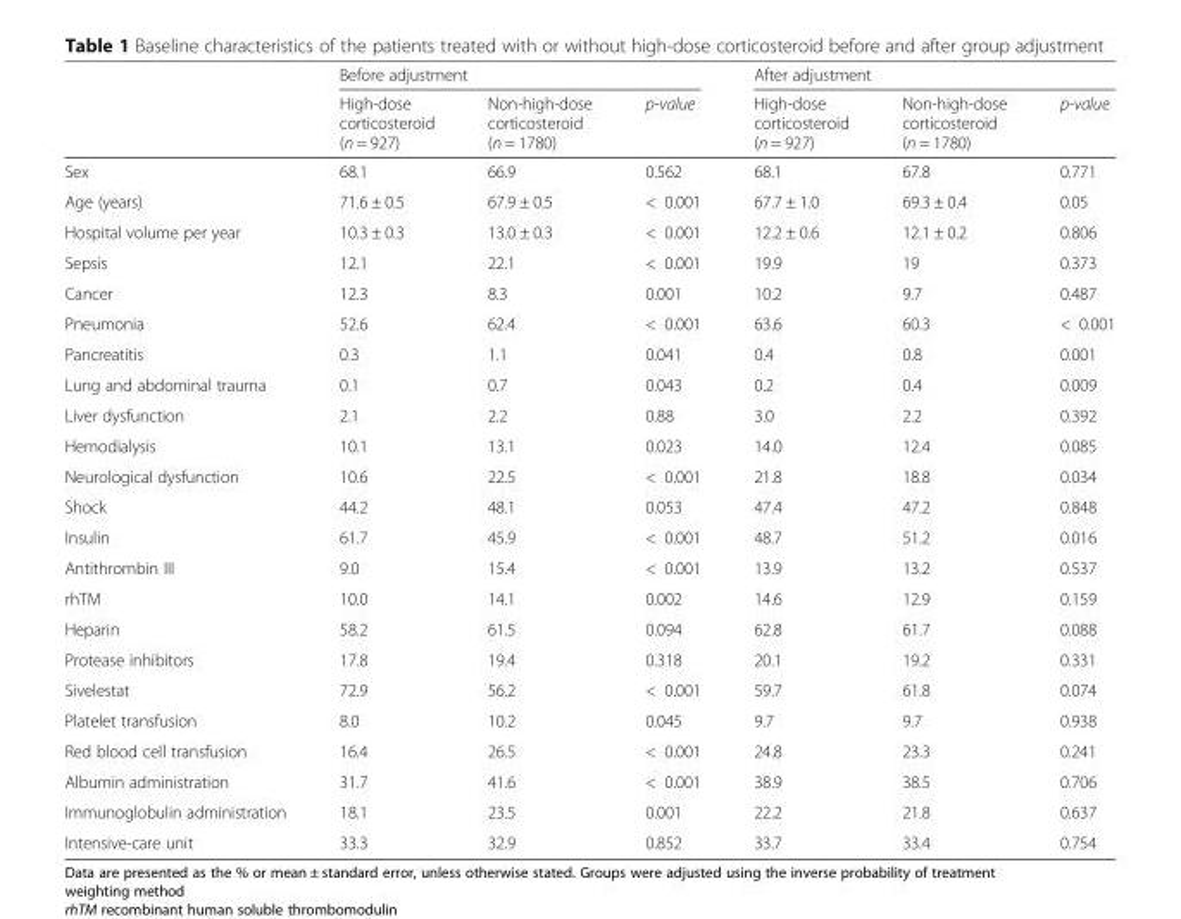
<table><thead><tr><td rowspan="2"></td><td colspan="3">Before adjustment</td><td colspan="3">After adjustment</td></tr><tr><td>High-dose corticosteroid (n = 927)</td><td>Non-high-dose corticosteroid (n = 1780)</td><td>p-value</td><td>High-dose corticosteroid (n = 927)</td><td>Non-high-dose corticosteroid (n = 1780)</td><td>p-value</td></tr></thead><tbody><tr><td>Sex</td><td>68.1</td><td>66.9</td><td>0.562</td><td>68.1</td><td>67.8</td><td>0.771</td></tr><tr><td>Age (years)</td><td>71.6 ± 0.5</td><td>67.9 ± 0.5</td><td>&lt; 0.001</td><td>67.7 ± 1.0</td><td>69.3 ± 0.4</td><td>0.05</td></tr><tr><td>Hospital volume per year</td><td>10.3 ± 0.3</td><td>13.0 ± 0.3</td><td>&lt; 0.001</td><td>12.2 ± 0.6</td><td>12.1 ± 0.2</td><td>0.806</td></tr><tr><td>Sepsis</td><td>12.1</td><td>22.1</td><td>&lt; 0.001</td><td>19.9</td><td>19</td><td>0.373</td></tr><tr><td>Cancer</td><td>12.3</td><td>8.3</td><td>0.001</td><td>10.2</td><td>9.7</td><td>0.487</td></tr><tr><td>Pneumonia</td><td>52.6</td><td>62.4</td><td>&lt; 0.001</td><td>63.6</td><td>60.3</td><td>&lt; 0.001</td></tr><tr><td>Pancreatitis</td><td>0.3</td><td>1.1</td><td>0.041</td><td>0.4</td><td>0.8</td><td>0.001</td></tr><tr><td>Lung and abdominal trauma</td><td>0.1</td><td>0.7</td><td>0.043</td><td>0.2</td><td>0.4</td><td>0.009</td></tr><tr><td>Liver dysfunction</td><td>2.1</td><td>2.2</td><td>0.88</td><td>3.0</td><td>2.2</td><td>0.392</td></tr><tr><td>Hemodialysis</td><td>10.1</td><td>13.1</td><td>0.023</td><td>14.0</td><td>12.4</td><td>0.085</td></tr><tr><td>Neurological dysfunction</td><td>10.6</td><td>22.5</td><td>&lt; 0.001</td><td>21.8</td><td>18.8</td><td>0.034</td></tr><tr><td>Shock</td><td>44.2</td><td>48.1</td><td>0.053</td><td>47.4</td><td>47.2</td><td>0.848</td></tr><tr><td>Insulin</td><td>61.7</td><td>45.9</td><td>&lt; 0.001</td><td>48.7</td><td>51.2</td><td>0.016</td></tr><tr><td>Antithrombin III</td><td>9.0</td><td>15.4</td><td>&lt; 0.001</td><td>13.9</td><td>13.2</td><td>0.537</td></tr><tr><td>rhTM</td><td>10.0</td><td>14.1</td><td>0.002</td><td>14.6</td><td>12.9</td><td>0.159</td></tr><tr><td>Heparin</td><td>58.2</td><td>61.5</td><td>0.094</td><td>62.8</td><td>61.7</td><td>0.088</td></tr><tr><td>Protease inhibitors</td><td>17.8</td><td>19.4</td><td>0.318</td><td>20.1</td><td>19.2</td><td>0.331</td></tr><tr><td>Sivelestat</td><td>72.9</td><td>56.2</td><td>&lt; 0.001</td><td>59.7</td><td>61.8</td><td>0.074</td></tr><tr><td>Platelet transfusion</td><td>8.0</td><td>10.2</td><td>0.045</td><td>9.7</td><td>9.7</td><td>0.938</td></tr><tr><td>Red blood cell transfusion</td><td>16.4</td><td>26.5</td><td>&lt; 0.001</td><td>24.8</td><td>23.3</td><td>0.241</td></tr><tr><td>Albumin administration</td><td>31.7</td><td>41.6</td><td>&lt; 0.001</td><td>38.9</td><td>38.5</td><td>0.706</td></tr><tr><td>Immunoglobulin administration</td><td>18.1</td><td>23.5</td><td>0.001</td><td>22.2</td><td>21.8</td><td>0.637</td></tr><tr><td>Intensive-care unit</td><td>33.3</td><td>32.9</td><td>0.852</td><td>33.7</td><td>33.4</td><td>0.754</td></tr></tbody></table>